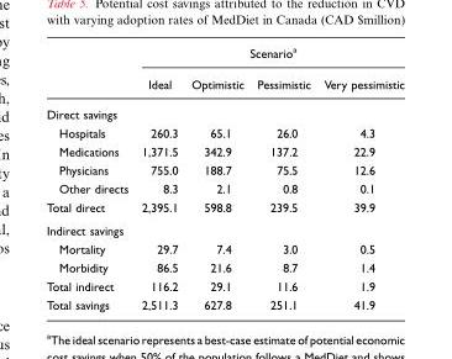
<table><thead><tr><td rowspan="2"></td><td colspan="4">Scenario<sup>a</sup></td></tr><tr><td>Ideal</td><td>Optimistic</td><td>Pessimistic</td><td>Very pessimistic</td></tr></thead><tbody><tr><td colspan="5">Direct savings</td></tr><tr><td>Hospitals</td><td>260.3</td><td>65.1</td><td>26.0</td><td>4.3</td></tr><tr><td>Medications</td><td>1,371.5</td><td>342.9</td><td>137.2</td><td>22.9</td></tr><tr><td>Physicians</td><td>755.0</td><td>188.7</td><td>75.5</td><td>12.6</td></tr><tr><td>Other directs</td><td>8.3</td><td>2.1</td><td>0.8</td><td>0.1</td></tr><tr><td>Total direct</td><td>2,395.1</td><td>598.8</td><td>239.5</td><td>39.9</td></tr><tr><td colspan="5">Indirect savings</td></tr><tr><td>Mortality</td><td>29.7</td><td>7.4</td><td>3.0</td><td>0.5</td></tr><tr><td>Morbidity</td><td>86.5</td><td>21.6</td><td>8.7</td><td>1.4</td></tr><tr><td>Total indirect</td><td>116.2</td><td>29.1</td><td>11.6</td><td>1.9</td></tr><tr><td>Total savings</td><td>2,511.3</td><td>627.8</td><td>251.1</td><td>41.9</td></tr></tbody></table>